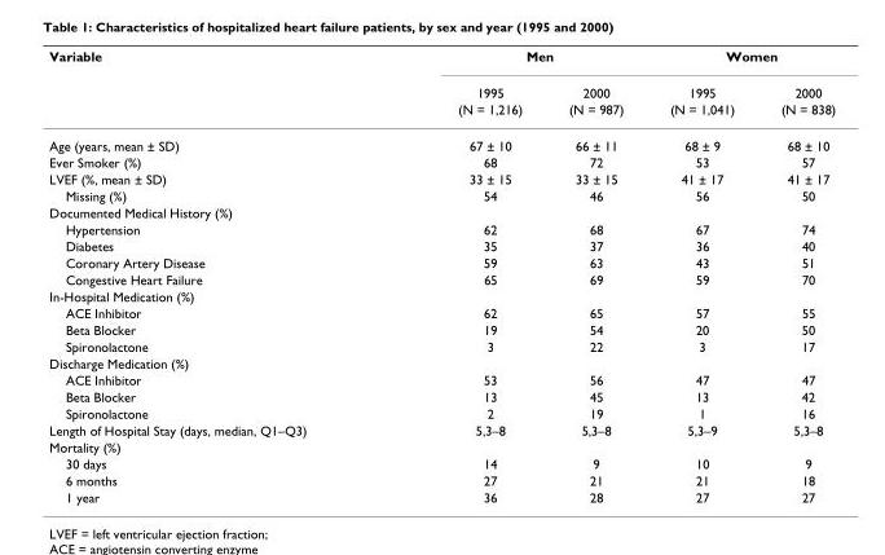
<table><thead><tr><td rowspan="3">Variable</td><td colspan="2">Men</td><td colspan="2">Women</td></tr><tr><td rowspan="2">1995 (N = 1,216)</td><td rowspan="2">2000 (N = 987)</td><td rowspan="2">1995 (N = 1,041)</td><td rowspan="2">2000 (N = 838)</td></tr><tr></tr></thead><tbody><tr><td>Age (years, mean ± SD)</td><td>67 ± 10</td><td>66 ± 11</td><td>68 ± 9</td><td>68 ± 10</td></tr><tr><td>Ever Smoker (%)</td><td>68</td><td>72</td><td>53</td><td>57</td></tr><tr><td>LVEF (%, mean ± SD)</td><td>33 ± 15</td><td>33 ± 15</td><td>41 ± 17</td><td>41 ± 17</td></tr><tr><td>Missing (%)</td><td>54</td><td>46</td><td>56</td><td>50</td></tr><tr><td colspan="5">Documented Medical History (%)</td></tr><tr><td>Hypertension</td><td>62</td><td>68</td><td>67</td><td>74</td></tr><tr><td>Diabetes</td><td>35</td><td>37</td><td>36</td><td>40</td></tr><tr><td>Coronary Artery Disease</td><td>59</td><td>63</td><td>43</td><td>51</td></tr><tr><td>Congestive Heart Failure</td><td>65</td><td>69</td><td>59</td><td>70</td></tr><tr><td colspan="5">In-Hospital Medication (%)</td></tr><tr><td>ACE Inhibitor</td><td>62</td><td>65</td><td>57</td><td>55</td></tr><tr><td>Beta Blocker</td><td>19</td><td>54</td><td>20</td><td>50</td></tr><tr><td>Spironolactone</td><td>3</td><td>22</td><td>3</td><td>17</td></tr><tr><td colspan="5">Discharge Medication (%)</td></tr><tr><td>ACE Inhibitor</td><td>53</td><td>56</td><td>47</td><td>47</td></tr><tr><td>Beta Blocker</td><td>13</td><td>45</td><td>13</td><td>42</td></tr><tr><td>Spironolactone</td><td>2</td><td>19</td><td>1</td><td>16</td></tr><tr><td>Length of Hospital Stay (days, median, Q1–Q3)</td><td>5,3–8</td><td>5,3–8</td><td>5,3–9</td><td>5,3–8</td></tr><tr><td colspan="5">Mortality (%)</td></tr><tr><td>30 days</td><td>14</td><td>9</td><td>10</td><td>9</td></tr><tr><td>6 months</td><td>27</td><td>21</td><td>21</td><td>18</td></tr><tr><td>1 year</td><td>36</td><td>28</td><td>27</td><td>27</td></tr></tbody></table>